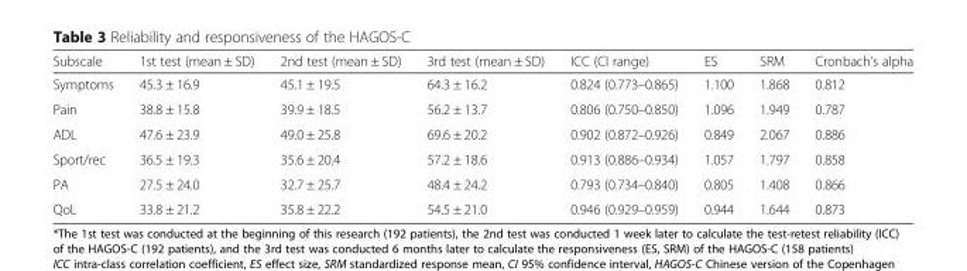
<table><thead><tr><td>Subscale</td><td>1st test (mean ± SD)</td><td>2nd test (mean ± SD)</td><td>3rd test (mean ± SD)</td><td>ICC (CI range)</td><td>ES</td><td>SRM</td><td>Cronbach’s alpha</td></tr></thead><tbody><tr><td>Symptoms</td><td>45.3 ± 16.9</td><td>45.1 ± 19.5</td><td>64.3 ± 16.2</td><td>0.824 (0.773–0.865)</td><td>1.100</td><td>1.868</td><td>0.812</td></tr><tr><td>Pain</td><td>38.8 ± 15.8</td><td>39.9 ± 18.5</td><td>56.2 ± 13.7</td><td>0.806 (0.750–0.850)</td><td>1.096</td><td>1.949</td><td>0.787</td></tr><tr><td>ADL</td><td>47.6 ± 23.9</td><td>49.0 ± 25.8</td><td>69.6 ± 20.2</td><td>0.902 (0.872–0.926)</td><td>0.849</td><td>2.067</td><td>0.886</td></tr><tr><td>Sport/rec</td><td>36.5 ± 19.3</td><td>35.6 ± 20.4</td><td>57.2 ± 18.6</td><td>0.913 (0.886–0.934)</td><td>1.057</td><td>1.797</td><td>0.858</td></tr><tr><td>PA</td><td>27.5 ± 24.0</td><td>32.7 ± 25.7</td><td>48.4 ± 24.2</td><td>0.793 (0.734–0.840)</td><td>0.805</td><td>1.408</td><td>0.866</td></tr><tr><td>QoL</td><td>33.8 ± 21.2</td><td>35.8 ± 22.2</td><td>54.5 ± 21.0</td><td>0.946 (0.929–0.959)</td><td>0.944</td><td>1.644</td><td>0.873</td></tr></tbody></table>